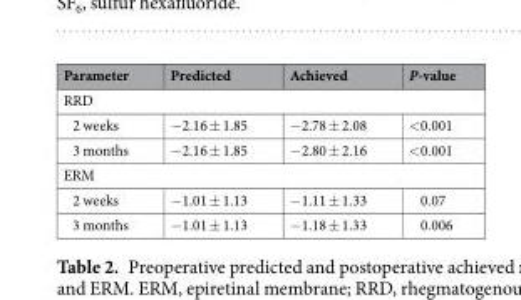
<table><thead><tr><td>Parameter</td><td>Predicted</td><td>Achieved</td><td>P-value</td></tr></thead><tbody><tr><td colspan="4">RRD</td></tr><tr><td>2 weeks</td><td>−2.16 ± 1.85</td><td>−2.78 ± 2.08</td><td>&lt;0.001</td></tr><tr><td>3 months</td><td>−2.16 ± 1.85</td><td>−2.80 ± 2.16</td><td>&lt;0.001</td></tr><tr><td colspan="4">ERM</td></tr><tr><td>2 weeks</td><td>−1.01 ± 1.13</td><td>−1.11 ± 1.33</td><td>0.07</td></tr><tr><td>3 months</td><td>−1.01 ± 1.13</td><td>−1.18 ± 1.33</td><td>0.006</td></tr></tbody></table>